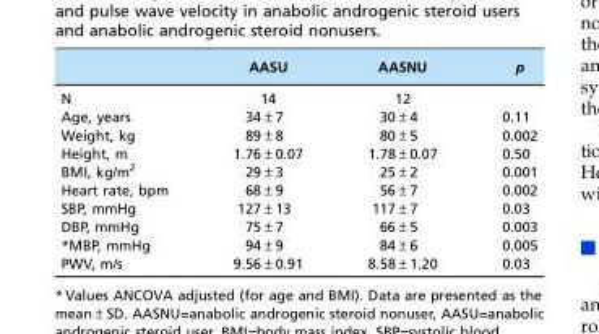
<table><thead><tr><td></td><td>AASU</td><td>AASNU</td><td>p</td></tr></thead><tbody><tr><td>N</td><td>14</td><td>12</td><td></td></tr><tr><td>Age, years</td><td>34±7</td><td>30±4</td><td>0.11</td></tr><tr><td>Weight, kg</td><td>89±8</td><td>80±5</td><td>0.002</td></tr><tr><td>Height, m</td><td>1.76±0.07</td><td>1.78±0.07</td><td>0.50</td></tr><tr><td>BMI, kg/m<sup>2</sup></td><td>29±3</td><td>25±2</td><td>0.001</td></tr><tr><td>Heart rate, bpm</td><td>68±9</td><td>56±7</td><td>0.002</td></tr><tr><td>SBP, mmHg</td><td>127±13</td><td>117±7</td><td>0.03</td></tr><tr><td>DBP, mmHg</td><td>75±7</td><td>66±5</td><td>0.003</td></tr><tr><td>*MBP, mmHg</td><td>94±9</td><td>84±6</td><td>0.005</td></tr><tr><td>PWV, m/s</td><td>9.56±0.91</td><td>8.58±1.20</td><td>0.03</td></tr></tbody></table>